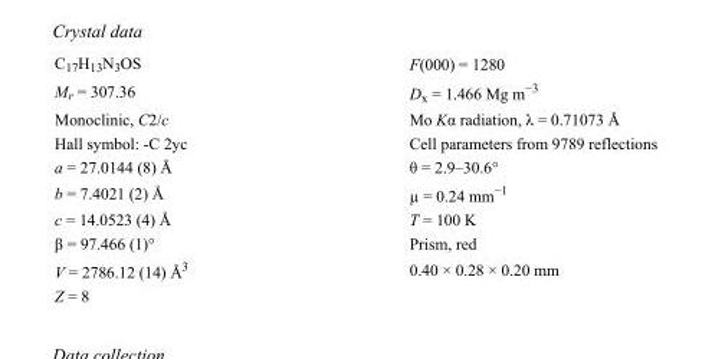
<table><tbody><tr><td>C<sub>17</sub>H<sub>13</sub>N<sub>3</sub>OS</td><td>F(000) = 1280</td></tr><tr><td>M<sub>r</sub> = 307.36</td><td>D<sub>x</sub> = 1.466 Mg m<sup>−3</sup></td></tr><tr><td>Monoclinic, C2/c</td><td>Mo Kα radiation, λ = 0.71073 Å</td></tr><tr><td>Hall symbol: -C 2yc</td><td>Cell parameters from 9789 reflections</td></tr><tr><td>a = 27.0144 (8) Å</td><td>θ = 2.9–30.6°</td></tr><tr><td>b = 7.4021 (2) Å</td><td>µ = 0.24 mm<sup>−1</sup></td></tr><tr><td>c = 14.0523 (4) Å</td><td>T = 100 K</td></tr><tr><td>β = 97.466 (1)°</td><td>Prism, red</td></tr><tr><td>V = 2786.12 (14) Å<sup>3</sup></td><td>0.40 × 0.28 × 0.20 mm</td></tr><tr><td>Z = 8</td><td></td></tr></tbody></table>